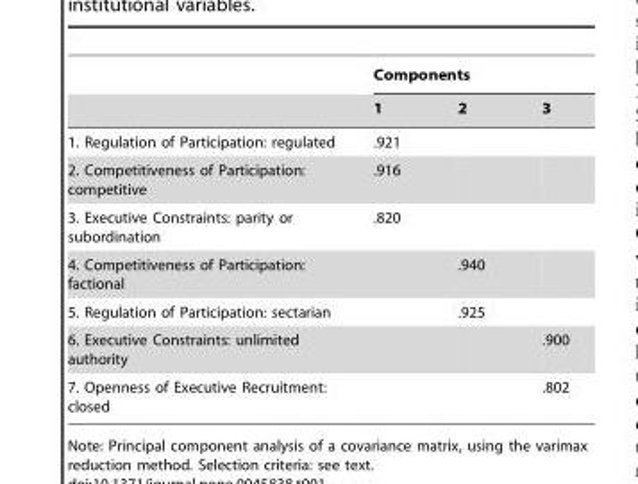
<table><thead><tr><td rowspan="2"></td><td colspan="3">Components</td></tr><tr><td>1</td><td>2</td><td>3</td></tr></thead><tbody><tr><td>1. Regulation of Participation: regulated</td><td>.921</td><td></td><td></td></tr><tr><td>2. Competitiveness of Participation: competitive</td><td>.916</td><td></td><td></td></tr><tr><td>3. Executive Constraints: parity or subordination</td><td>.820</td><td></td><td></td></tr><tr><td>4. Competitiveness of Participation: factional</td><td></td><td>.940</td><td></td></tr><tr><td>5. Regulation of Participation: sectarian</td><td></td><td>.925</td><td></td></tr><tr><td>6. Executive Constraints: unlimited authority</td><td></td><td></td><td>.900</td></tr><tr><td>7. Openness of Executive Recruitment: closed</td><td></td><td></td><td>.802</td></tr></tbody></table>